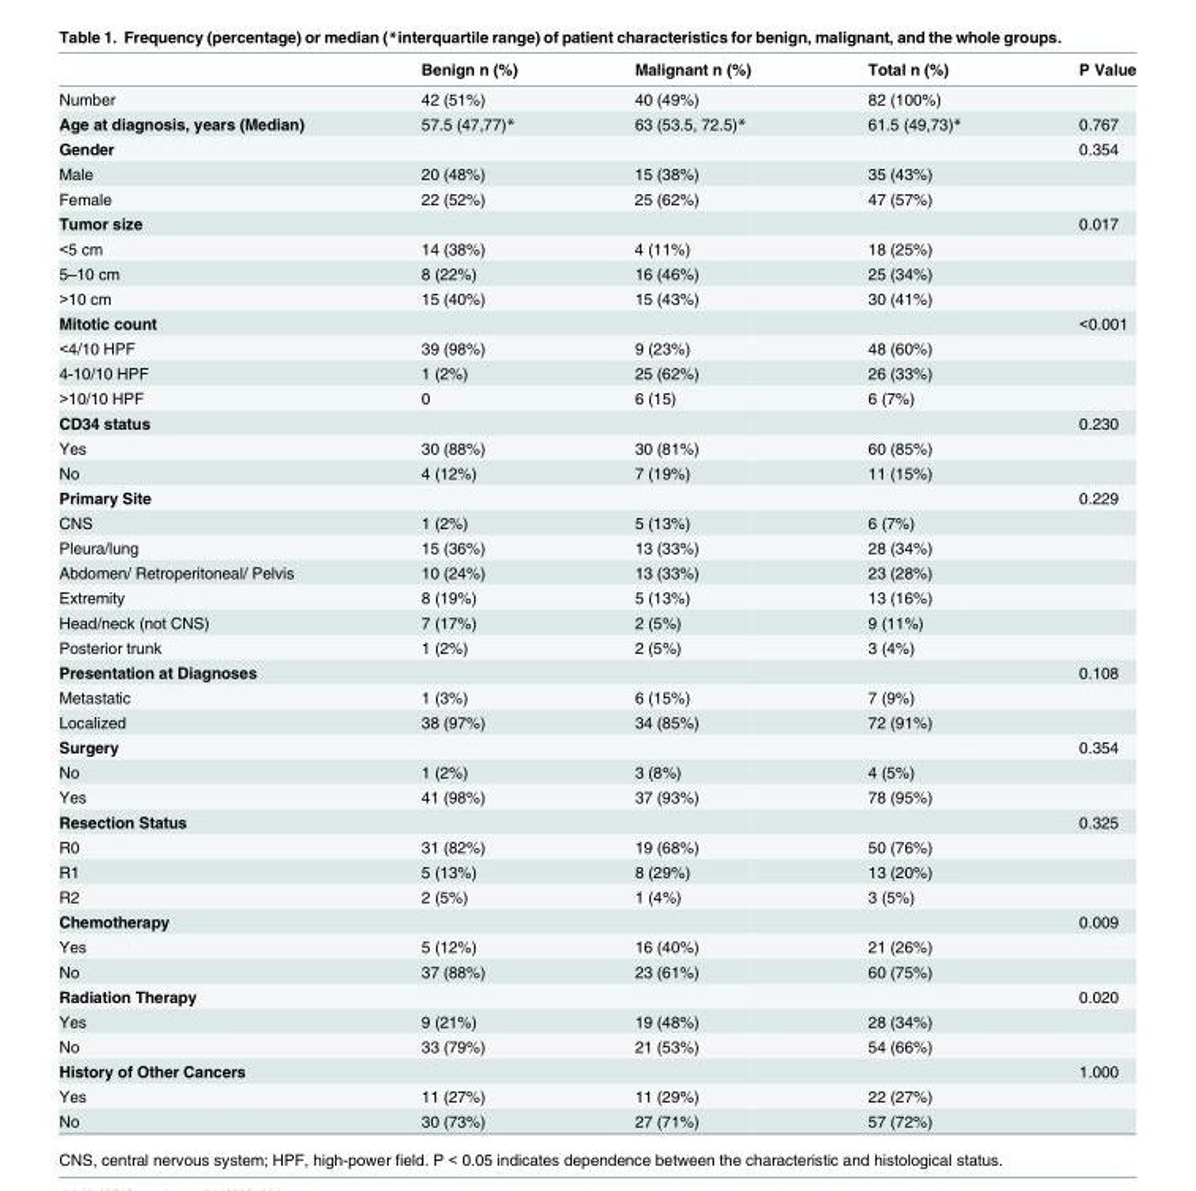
<table><thead><tr><td></td><td>Benign n (%)</td><td>Malignant n (%)</td><td>Total n (%)</td><td>P Value</td></tr></thead><tbody><tr><td>Number</td><td>42 (51%)</td><td>40 (49%)</td><td>82 (100%)</td><td></td></tr><tr><td>Age at diagnosis, years (Median)</td><td>57.5 (47,77)*</td><td>63 (53.5, 72.5)*</td><td>61.5 (49,73)*</td><td>0.767</td></tr><tr><td>Gender</td><td></td><td></td><td></td><td>0.354</td></tr><tr><td>Male</td><td>20 (48%)</td><td>15 (38%)</td><td>35 (43%)</td><td></td></tr><tr><td>Female</td><td>22 (52%)</td><td>25 (62%)</td><td>47 (57%)</td><td></td></tr><tr><td>Tumor size</td><td></td><td></td><td></td><td>0.017</td></tr><tr><td>&lt;5 cm</td><td>14 (38%)</td><td>4 (11%)</td><td>18 (25%)</td><td></td></tr><tr><td>5–10 cm</td><td>8 (22%)</td><td>16 (46%)</td><td>25 (34%)</td><td></td></tr><tr><td>&gt;10 cm</td><td>15 (40%)</td><td>15 (43%)</td><td>30 (41%)</td><td></td></tr><tr><td>Mitotic count</td><td></td><td></td><td></td><td>&lt;0.001</td></tr><tr><td>&lt;4/10 HPF</td><td>39 (98%)</td><td>9 (23%)</td><td>48 (60%)</td><td></td></tr><tr><td>4-10/10 HPF</td><td>1 (2%)</td><td>25 (62%)</td><td>26 (33%)</td><td></td></tr><tr><td>&gt;10/10 HPF</td><td>0</td><td>6 (15)</td><td>6 (7%)</td><td></td></tr><tr><td>CD34 status</td><td></td><td></td><td></td><td>0.230</td></tr><tr><td>Yes</td><td>30 (88%)</td><td>30 (81%)</td><td>60 (85%)</td><td></td></tr><tr><td>No</td><td>4 (12%)</td><td>7 (19%)</td><td>11 (15%)</td><td></td></tr><tr><td>Primary Site</td><td></td><td></td><td></td><td>0.229</td></tr><tr><td>CNS</td><td>1 (2%)</td><td>5 (13%)</td><td>6 (7%)</td><td></td></tr><tr><td>Pleura/lung</td><td>15 (36%)</td><td>13 (33%)</td><td>28 (34%)</td><td></td></tr><tr><td>Abdomen/ Retroperitoneal/ Pelvis</td><td>10 (24%)</td><td>13 (33%)</td><td>23 (28%)</td><td></td></tr><tr><td>Extremity</td><td>8 (19%)</td><td>5 (13%)</td><td>13 (16%)</td><td></td></tr><tr><td>Head/neck (not CNS)</td><td>7 (17%)</td><td>2 (5%)</td><td>9 (11%)</td><td></td></tr><tr><td>Posterior trunk</td><td>1 (2%)</td><td>2 (5%)</td><td>3 (4%)</td><td></td></tr><tr><td>Presentation at Diagnoses</td><td></td><td></td><td></td><td>0.108</td></tr><tr><td>Metastatic</td><td>1 (3%)</td><td>6 (15%)</td><td>7 (9%)</td><td></td></tr><tr><td>Localized</td><td>38 (97%)</td><td>34 (85%)</td><td>72 (91%)</td><td></td></tr><tr><td>Surgery</td><td></td><td></td><td></td><td>0.354</td></tr><tr><td>No</td><td>1 (2%)</td><td>3 (8%)</td><td>4 (5%)</td><td></td></tr><tr><td>Yes</td><td>41 (98%)</td><td>37 (93%)</td><td>78 (95%)</td><td></td></tr><tr><td>Resection Status</td><td></td><td></td><td></td><td>0.325</td></tr><tr><td>R0</td><td>31 (82%)</td><td>19 (68%)</td><td>50 (76%)</td><td></td></tr><tr><td>R1</td><td>5 (13%)</td><td>8 (29%)</td><td>13 (20%)</td><td></td></tr><tr><td>R2</td><td>2 (5%)</td><td>1 (4%)</td><td>3 (5%)</td><td></td></tr><tr><td>Chemotherapy</td><td></td><td></td><td></td><td>0.009</td></tr><tr><td>Yes</td><td>5 (12%)</td><td>16 (40%)</td><td>21 (26%)</td><td></td></tr><tr><td>No</td><td>37 (88%)</td><td>23 (61%)</td><td>60 (75%)</td><td></td></tr><tr><td>Radiation Therapy</td><td></td><td></td><td></td><td>0.020</td></tr><tr><td>Yes</td><td>9 (21%)</td><td>19 (48%)</td><td>28 (34%)</td><td></td></tr><tr><td>No</td><td>33 (79%)</td><td>21 (53%)</td><td>54 (66%)</td><td></td></tr><tr><td>History of Other Cancers</td><td></td><td></td><td></td><td>1.000</td></tr><tr><td>Yes</td><td>11 (27%)</td><td>11 (29%)</td><td>22 (27%)</td><td></td></tr><tr><td>No</td><td>30 (73%)</td><td>27 (71%)</td><td>57 (72%)</td><td></td></tr></tbody></table>